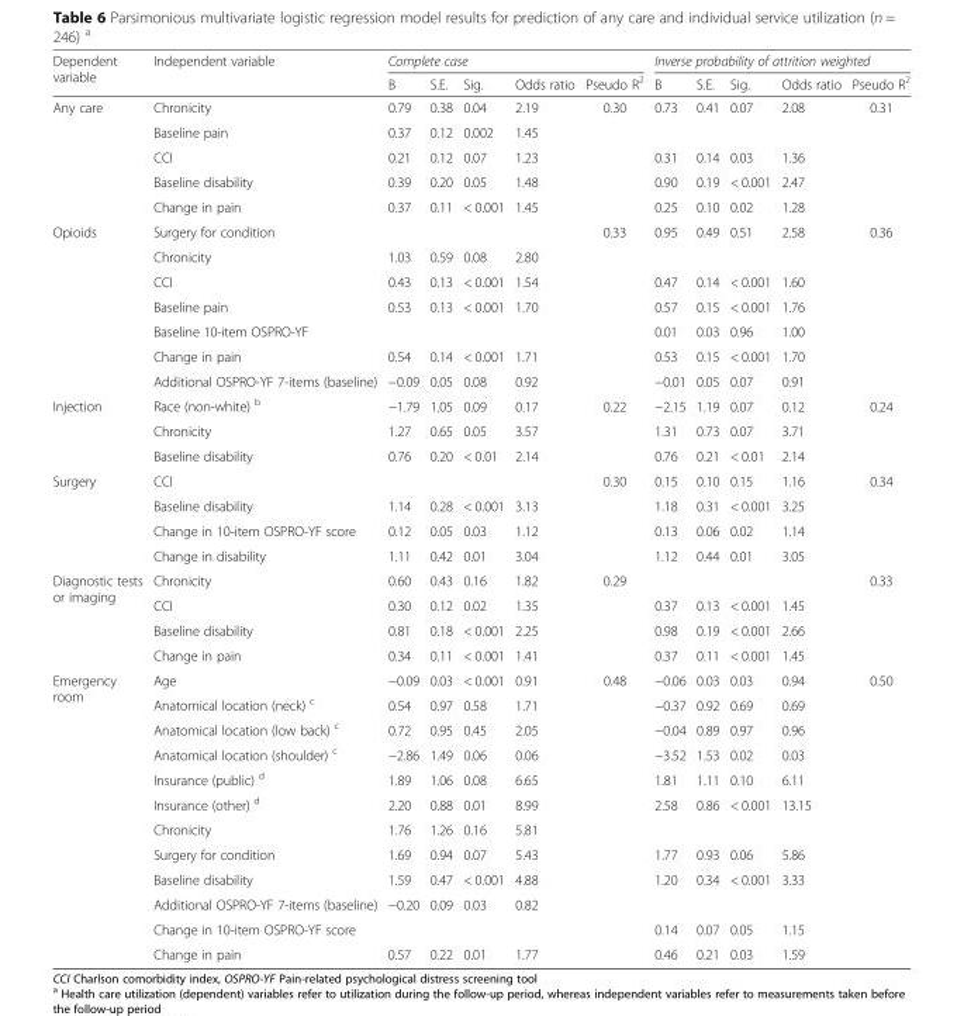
<table><thead><tr><td rowspan="2">Dependent variable</td><td rowspan="2">Independent variable</td><td colspan="5">Complete case</td><td colspan="5">Inverse probability of attrition weighted</td></tr><tr><td>B</td><td>S.E.</td><td>Sig.</td><td>Odds ratio</td><td>Pseudo R<sup>2</sup></td><td>B</td><td>S.E.</td><td>Sig.</td><td>Odds ratio</td><td>Pseudo R<sup>2</sup></td></tr></thead><tbody><tr><td rowspan="5">Any care</td><td>Chronicity</td><td>0.79</td><td>0.38</td><td>0.04</td><td>2.19</td><td rowspan="5">0.30</td><td>0.73</td><td>0.41</td><td>0.07</td><td>2.08</td><td rowspan="5">0.31</td></tr><tr><td>Baseline pain</td><td>0.37</td><td>0.12</td><td>0.002</td><td>1.45</td><td></td><td></td><td></td><td></td></tr><tr><td>CCI</td><td>0.21</td><td>0.12</td><td>0.07</td><td>1.23</td><td>0.31</td><td>0.14</td><td>0.03</td><td>1.36</td></tr><tr><td>Baseline disability</td><td>0.39</td><td>0.20</td><td>0.05</td><td>1.48</td><td>0.90</td><td>0.19</td><td>&lt; 0.001</td><td>2.47</td></tr><tr><td>Change in pain</td><td>0.37</td><td>0.11</td><td>&lt; 0.001</td><td>1.45</td><td>0.25</td><td>0.10</td><td>0.02</td><td>1.28</td></tr><tr><td rowspan="7">Opioids</td><td>Surgery for condition</td><td></td><td></td><td></td><td></td><td rowspan="7">0.33</td><td>0.95</td><td>0.49</td><td>0.51</td><td>2.58</td><td rowspan="7">0.36</td></tr><tr><td>Chronicity</td><td>1.03</td><td>0.59</td><td>0.08</td><td>2.80</td><td></td><td></td><td></td><td></td></tr><tr><td>CCI</td><td>0.43</td><td>0.13</td><td>&lt; 0.001</td><td>1.54</td><td>0.47</td><td>0.14</td><td>&lt; 0.001</td><td>1.60</td></tr><tr><td>Baseline pain</td><td>0.53</td><td>0.13</td><td>&lt; 0.001</td><td>1.70</td><td>0.57</td><td>0.15</td><td>&lt; 0.001</td><td>1.76</td></tr><tr><td>Baseline 10-item OSPRO-YF</td><td></td><td></td><td></td><td></td><td>0.01</td><td>0.03</td><td>0.96</td><td>1.00</td></tr><tr><td>Change in pain</td><td>0.54</td><td>0.14</td><td>&lt; 0.001</td><td>1.71</td><td>0.53</td><td>0.15</td><td>&lt; 0.001</td><td>1.70</td></tr><tr><td>Additional OSPRO-YF 7-items (baseline)</td><td>−0.09</td><td>0.05</td><td>0.08</td><td>0.92</td><td>−0.01</td><td>0.05</td><td>0.07</td><td>0.91</td></tr><tr><td rowspan="3">Injection</td><td>Race (non-white) <sup>b</sup></td><td>−1.79</td><td>1.05</td><td>0.09</td><td>0.17</td><td rowspan="3">0.22</td><td>−2.15</td><td>1.19</td><td>0.07</td><td>0.12</td><td rowspan="3">0.24</td></tr><tr><td>Chronicity</td><td>1.27</td><td>0.65</td><td>0.05</td><td>3.57</td><td>1.31</td><td>0.73</td><td>0.07</td><td>3.71</td></tr><tr><td>Baseline disability</td><td>0.76</td><td>0.20</td><td>&lt; 0.01</td><td>2.14</td><td>0.76</td><td>0.21</td><td>&lt; 0.01</td><td>2.14</td></tr><tr><td rowspan="4">Surgery</td><td>CCI</td><td></td><td></td><td></td><td></td><td rowspan="4">0.30</td><td>0.15</td><td>0.10</td><td>0.15</td><td>1.16</td><td rowspan="4">0.34</td></tr><tr><td>Baseline disability</td><td>1.14</td><td>0.28</td><td>&lt; 0.001</td><td>3.13</td><td>1.18</td><td>0.31</td><td>&lt; 0.001</td><td>3.25</td></tr><tr><td>Change in 10-item OSPRO-YF score</td><td>0.12</td><td>0.05</td><td>0.03</td><td>1.12</td><td>0.13</td><td>0.06</td><td>0.02</td><td>1.14</td></tr><tr><td>Change in disability</td><td>1.11</td><td>0.42</td><td>0.01</td><td>3.04</td><td>1.12</td><td>0.44</td><td>0.01</td><td>3.05</td></tr><tr><td rowspan="4">Diagnostic tests or imaging</td><td>Chronicity</td><td>0.60</td><td>0.43</td><td>0.16</td><td>1.82</td><td rowspan="4">0.29</td><td></td><td></td><td></td><td></td><td rowspan="4">0.33</td></tr><tr><td>CCI</td><td>0.30</td><td>0.12</td><td>0.02</td><td>1.35</td><td>0.37</td><td>0.13</td><td>&lt; 0.001</td><td>1.45</td></tr><tr><td>Baseline disability</td><td>0.81</td><td>0.18</td><td>&lt; 0.001</td><td>2.25</td><td>0.98</td><td>0.19</td><td>&lt; 0.001</td><td>2.66</td></tr><tr><td>Change in pain</td><td>0.34</td><td>0.11</td><td>&lt; 0.001</td><td>1.41</td><td>0.37</td><td>0.11</td><td>&lt; 0.001</td><td>1.45</td></tr><tr><td rowspan="12">Emergency room</td><td>Age</td><td>−0.09</td><td>0.03</td><td>&lt; 0.001</td><td>0.91</td><td rowspan="12">0.48</td><td>−0.06</td><td>0.03</td><td>0.03</td><td>0.94</td><td rowspan="12">0.50</td></tr><tr><td>Anatomical location (neck) <sup>c</sup></td><td>0.54</td><td>0.97</td><td>0.58</td><td>1.71</td><td>−0.37</td><td>0.92</td><td>0.69</td><td>0.69</td></tr><tr><td>Anatomical location (low back) <sup>c</sup></td><td>0.72</td><td>0.95</td><td>0.45</td><td>2.05</td><td>−0.04</td><td>0.89</td><td>0.97</td><td>0.96</td></tr><tr><td>Anatomical location (shoulder) <sup>c</sup></td><td>−2.86</td><td>1.49</td><td>0.06</td><td>0.06</td><td>−3.52</td><td>1.53</td><td>0.02</td><td>0.03</td></tr><tr><td>Insurance (public) <sup>d</sup></td><td>1.89</td><td>1.06</td><td>0.08</td><td>6.65</td><td>1.81</td><td>1.11</td><td>0.10</td><td>6.11</td></tr><tr><td>Insurance (other) <sup>d</sup></td><td>2.20</td><td>0.88</td><td>0.01</td><td>8.99</td><td>2.58</td><td>0.86</td><td>&lt; 0.001</td><td>13.15</td></tr><tr><td>Chronicity</td><td>1.76</td><td>1.26</td><td>0.16</td><td>5.81</td><td></td><td></td><td></td><td></td></tr><tr><td>Surgery for condition</td><td>1.69</td><td>0.94</td><td>0.07</td><td>5.43</td><td>1.77</td><td>0.93</td><td>0.06</td><td>5.86</td></tr><tr><td>Baseline disability</td><td>1.59</td><td>0.47</td><td>&lt; 0.001</td><td>4.88</td><td>1.20</td><td>0.34</td><td>&lt; 0.001</td><td>3.33</td></tr><tr><td>Additional OSPRO-YF 7-items (baseline)</td><td>−0.20</td><td>0.09</td><td>0.03</td><td>0.82</td><td></td><td></td><td></td><td></td></tr><tr><td>Change in 10-item OSPRO-YF score</td><td></td><td></td><td></td><td></td><td>0.14</td><td>0.07</td><td>0.05</td><td>1.15</td></tr><tr><td>Change in pain</td><td>0.57</td><td>0.22</td><td>0.01</td><td>1.77</td><td>0.46</td><td>0.21</td><td>0.03</td><td>1.59</td></tr></tbody></table>